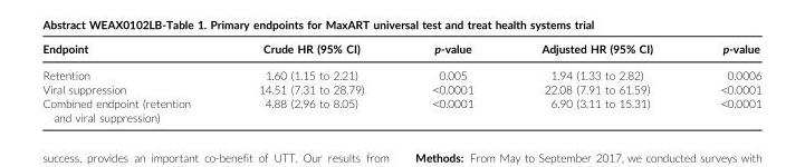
<table><thead><tr><td>Endpoint</td><td>Crude HR (95% CI)</td><td>p-value</td><td>Adjusted HR (95% CI)</td><td>p-value</td></tr></thead><tbody><tr><td>Retention</td><td>1.60 (1.15 to 2.21)</td><td>0.005</td><td>1.94 (1.33 to 2.82)</td><td>0.0006</td></tr><tr><td>Viral suppression</td><td>14.51 (7.31 to 28.79)</td><td>&lt;0.0001</td><td>22.08 (7.91 to 61.59)</td><td>&lt;0.0001</td></tr><tr><td>Combined endpoint (retention and viral suppression)</td><td>4.88 (2.96 to 8.05)</td><td>&lt;0.0001</td><td>6.90 (3.11 to 15.31)</td><td>&lt;0.0001</td></tr></tbody></table>